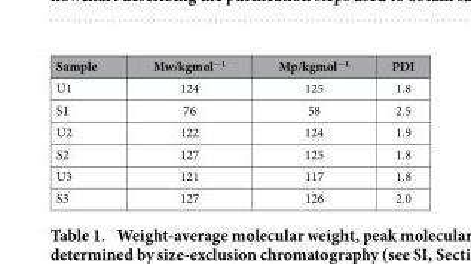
<table><thead><tr><td>Sample</td><td>Mw/kgmol<sup>−1</sup></td><td>Mp/kgmol<sup>−1</sup></td><td>PDI</td></tr></thead><tbody><tr><td>U1</td><td>124</td><td>125</td><td>1.8</td></tr><tr><td>S1</td><td>76</td><td>58</td><td>2.5</td></tr><tr><td>U2</td><td>122</td><td>124</td><td>1.9</td></tr><tr><td>S2</td><td>127</td><td>125</td><td>1.8</td></tr><tr><td>U3</td><td>121</td><td>117</td><td>1.8</td></tr><tr><td>S3</td><td>127</td><td>126</td><td>2.0</td></tr></tbody></table>